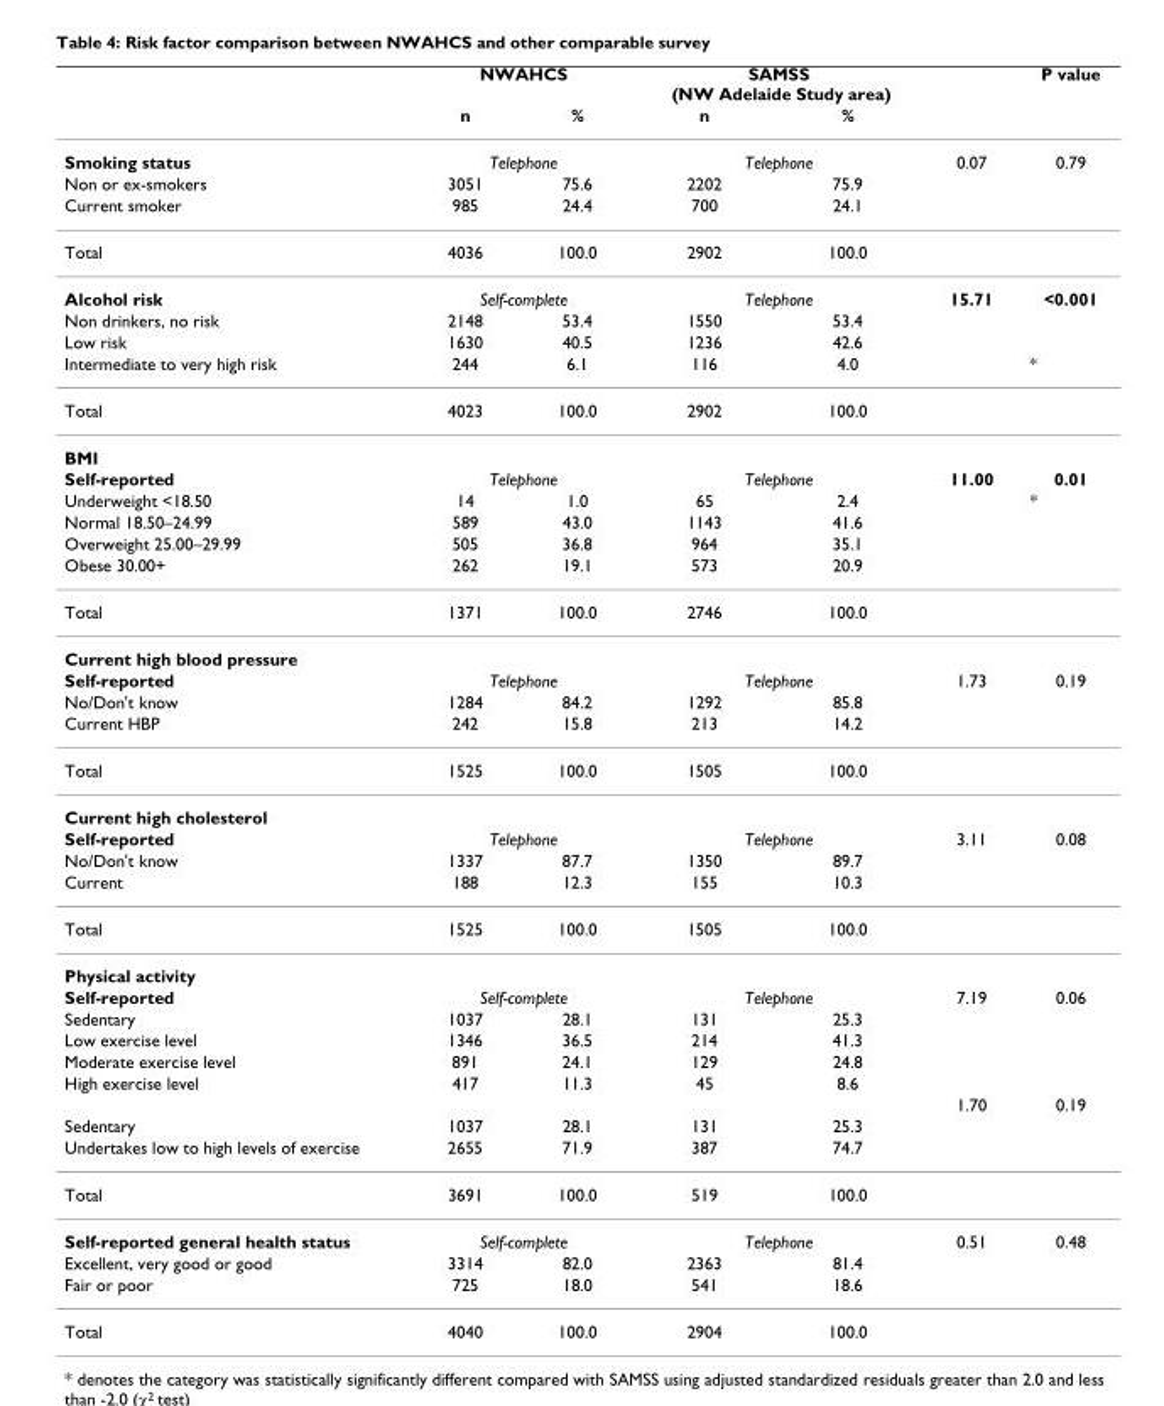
<table><thead><tr><td rowspan="2"></td><td colspan="2">NWAHCS</td><td colspan="2">SAMSS (NW Adelaide Study area)</td><td rowspan="2"></td><td rowspan="2">P value</td></tr><tr><td>n</td><td>%</td><td>n</td><td>%</td></tr></thead><tbody><tr><td>Smoking status</td><td colspan="2">Telephone</td><td colspan="2">Telephone</td><td>0.07</td><td>0.79</td></tr><tr><td>Non or ex-smokers</td><td>3051</td><td>75.6</td><td>2202</td><td>75.9</td><td></td><td></td></tr><tr><td>Current smoker</td><td>985</td><td>24.4</td><td>700</td><td>24.1</td><td></td><td></td></tr><tr><td>Total</td><td>4036</td><td>100.0</td><td>2902</td><td>100.0</td><td></td><td></td></tr><tr><td>Alcohol risk</td><td colspan="2">Self-complete</td><td colspan="2">Telephone</td><td>15.71</td><td>&lt;0.001</td></tr><tr><td>Non drinkers, no risk</td><td>2148</td><td>53.4</td><td>1550</td><td>53.4</td><td></td><td></td></tr><tr><td>Low risk</td><td>1630</td><td>40.5</td><td>1236</td><td>42.6</td><td></td><td></td></tr><tr><td>Intermediate to very high risk</td><td>244</td><td>6.1</td><td>116</td><td>4.0</td><td></td><td>*</td></tr><tr><td>Total</td><td>4023</td><td>100.0</td><td>2902</td><td>100.0</td><td></td><td></td></tr><tr><td colspan="7">BMI</td></tr><tr><td>Self-reported</td><td colspan="2">Telephone</td><td colspan="2">Telephone</td><td>11.00</td><td>0.01</td></tr><tr><td>Underweight &lt;18.50</td><td>14</td><td>1.0</td><td>65</td><td>2.4</td><td></td><td>*</td></tr><tr><td>Normal 18.50–24.99</td><td>589</td><td>43.0</td><td>1143</td><td>41.6</td><td></td><td></td></tr><tr><td>Overweight 25.00–29.99</td><td>505</td><td>36.8</td><td>964</td><td>35.1</td><td></td><td></td></tr><tr><td>Obese 30.00+</td><td>262</td><td>19.1</td><td>573</td><td>20.9</td><td></td><td></td></tr><tr><td>Total</td><td>1371</td><td>100.0</td><td>2746</td><td>100.0</td><td></td><td></td></tr><tr><td colspan="7">Current high blood pressure</td></tr><tr><td>Self-reported</td><td colspan="2">Telephone</td><td colspan="2">Telephone</td><td>1.73</td><td>0.19</td></tr><tr><td>No/Don&#x27;t know</td><td>1284</td><td>84.2</td><td>1292</td><td>85.8</td><td></td><td></td></tr><tr><td>Current HBP</td><td>242</td><td>15.8</td><td>213</td><td>14.2</td><td></td><td></td></tr><tr><td>Total</td><td>1525</td><td>100.0</td><td>1505</td><td>100.0</td><td></td><td></td></tr><tr><td colspan="7">Current high cholesterol</td></tr><tr><td>Self-reported</td><td colspan="2">Telephone</td><td colspan="2">Telephone</td><td>3.11</td><td>0.08</td></tr><tr><td>No/Don&#x27;t know</td><td>1337</td><td>87.7</td><td>1350</td><td>89.7</td><td></td><td></td></tr><tr><td>Current</td><td>188</td><td>12.3</td><td>155</td><td>10.3</td><td></td><td></td></tr><tr><td>Total</td><td>1525</td><td>100.0</td><td>1505</td><td>100.0</td><td></td><td></td></tr><tr><td colspan="7">Physical activity</td></tr><tr><td>Self-reported</td><td colspan="2">Self-complete</td><td colspan="2">Telephone</td><td>7.19</td><td>0.06</td></tr><tr><td>Sedentary</td><td>1037</td><td>28.1</td><td>131</td><td>25.3</td><td></td><td></td></tr><tr><td>Low exercise level</td><td>1346</td><td>36.5</td><td>214</td><td>41.3</td><td></td><td></td></tr><tr><td>Moderate exercise level</td><td>891</td><td>24.1</td><td>129</td><td>24.8</td><td></td><td></td></tr><tr><td rowspan="2">High exercise level</td><td>417</td><td>11.3</td><td>45</td><td>8.6</td><td></td><td></td></tr><tr><td></td><td></td><td></td><td></td><td>1.70</td><td>0.19</td></tr><tr><td>Sedentary</td><td>1037</td><td>28.1</td><td>131</td><td>25.3</td><td></td><td></td></tr><tr><td>Undertakes low to high levels of exercise</td><td>2655</td><td>71.9</td><td>387</td><td>74.7</td><td></td><td></td></tr><tr><td>Total</td><td>3691</td><td>100.0</td><td>519</td><td>100.0</td><td></td><td></td></tr><tr><td>Self-reported general health status</td><td colspan="2">Self-complete</td><td colspan="2">Telephone</td><td>0.51</td><td>0.48</td></tr><tr><td>Excellent, very good or good</td><td>3314</td><td>82.0</td><td>2363</td><td>81.4</td><td></td><td></td></tr><tr><td>Fair or poor</td><td>725</td><td>18.0</td><td>541</td><td>18.6</td><td></td><td></td></tr><tr><td>Total</td><td>4040</td><td>100.0</td><td>2904</td><td>100.0</td><td></td><td></td></tr></tbody></table>